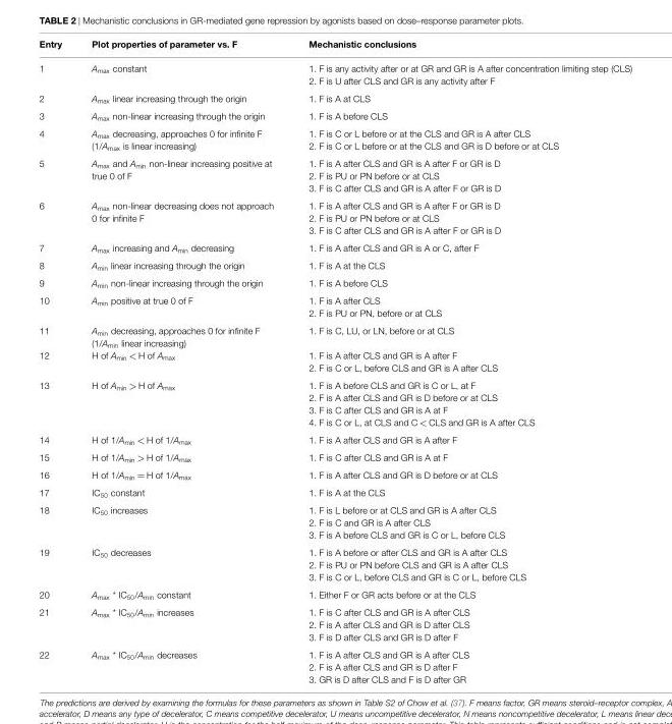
<table><thead><tr><td>Entry</td><td>Plot properties of parameter vs. F</td><td>Mechanistic conclusions</td></tr></thead><tbody><tr><td>1</td><td>A<sub>max</sub> constant</td><td>1. F is any activity after or at GR and GR is A after concentration limiting step (CLS) 2. F is U after CLS and GR is any activity after F</td></tr><tr><td>2</td><td>A<sub>max</sub> linear increasing through the origin</td><td>1. F is A at CLS</td></tr><tr><td>3</td><td>A<sub>max</sub> non-linear increasing through the origin</td><td>1. F is A before CLS</td></tr><tr><td>4</td><td>A<sub>max</sub> decreasing, approaches 0 for infinite F (1/A<sub>max</sub> is linear increasing)</td><td>1. F is C or L before or at the CLS and GR is A after CLS 2. F is C or L before or at the CLS and GR is D before or at CLS</td></tr><tr><td>5</td><td>A<sub>max</sub> and A<sub>min</sub> non-linear increasing positive at true 0 of F</td><td>1. F is A after CLS and GR is A after F or GR is D 2. F is PU or PN before or at CLS 3. F is C after CLS and GR is A after F or GR is D</td></tr><tr><td>6</td><td>A<sub>max</sub> non-linear decreasing does not approach 0 for infinite F</td><td>1. F is A after CLS and GR is A after F or GR is D 2. F is PU or PN before or at CLS 3. F is C after CLS and GR is A after F or GR is D</td></tr><tr><td>7</td><td>A<sub>max</sub> increasing and A<sub>min</sub> decreasing</td><td>1. F is A after CLS and GR is A or C, after F</td></tr><tr><td>8</td><td>A<sub>min</sub> linear increasing through the origin</td><td>1. F is A at the CLS</td></tr><tr><td>9</td><td>A<sub>min</sub> non-linear increasing through the origin</td><td>1. F is A before CLS</td></tr><tr><td>10</td><td>A<sub>min</sub> positive at true 0 of F</td><td>1. F is A after CLS 2. F is PU or PN, before or at CLS</td></tr><tr><td>11</td><td>A<sub>min</sub> decreasing, approaches 0 for infinite F (1/A<sub>min</sub> linear increasing)</td><td>1. F is C, LU, or LN, before or at CLS</td></tr><tr><td>12</td><td>H of A<sub>min</sub> &lt; H of A<sub>max</sub></td><td>1. F is A after CLS and GR is A after F 2. F is C or L, before CLS and GR is A after CLS</td></tr><tr><td>13</td><td>H of A<sub>min</sub> &gt; H of A<sub>max</sub></td><td>1. F is A before CLS and GR is C or L, at F 2. F is A after CLS and GR is D before or at CLS 3. F is C after CLS and GR is A at F 4. F is C or L, at CLS and C &lt; CLS and GR is A after CLS</td></tr><tr><td>14</td><td>H of 1/A<sub>min</sub> &lt; H of 1/A<sub>max</sub></td><td>1. F is A after CLS and GR is A after F</td></tr><tr><td>15</td><td>H of 1/A<sub>min</sub> &gt; H of 1/A<sub>max</sub></td><td>1. F is C after CLS and GR is A at F</td></tr><tr><td>16</td><td>H of 1/A<sub>min</sub> = H of 1/A<sub>max</sub></td><td>1. F is A after CLS and GR is D before or at CLS</td></tr><tr><td>17</td><td>IC<sub>50</sub> constant</td><td>1. F is A at the CLS</td></tr><tr><td>18</td><td>IC<sub>50</sub> increases</td><td>1. F is L before or at CLS and GR is A after CLS 2. F is C and GR is A after CLS 3. F is A before CLS and GR is C or L, before CLS</td></tr><tr><td>19</td><td>IC<sub>50</sub> decreases</td><td>1. F is A before or after CLS and GR is A after CLS 2. F is PU or PN before CLS and GR is A after CLS 3. F is C or L, before CLS and GR is C or L, before CLS</td></tr><tr><td>20</td><td>A<sub>max</sub> * IC<sub>50</sub>/A<sub>min</sub> constant</td><td>1. Either F or GR acts before or at the CLS</td></tr><tr><td>21</td><td>A<sub>max</sub> * IC<sub>50</sub>/A<sub>min</sub> increases</td><td>1. F is C after CLS and GR is A after CLS 2. F is A after CLS and GR is D after CLS 3. F is D after CLS and GR is D after F</td></tr><tr><td>22</td><td>A<sub>max</sub> * IC<sub>50</sub>/A<sub>min</sub> decreases</td><td>1. F is A after CLS and GR is A after CLS 2. F is A after CLS and GR is D after F 3. GR is D after CLS and F is D after GR</td></tr></tbody></table>